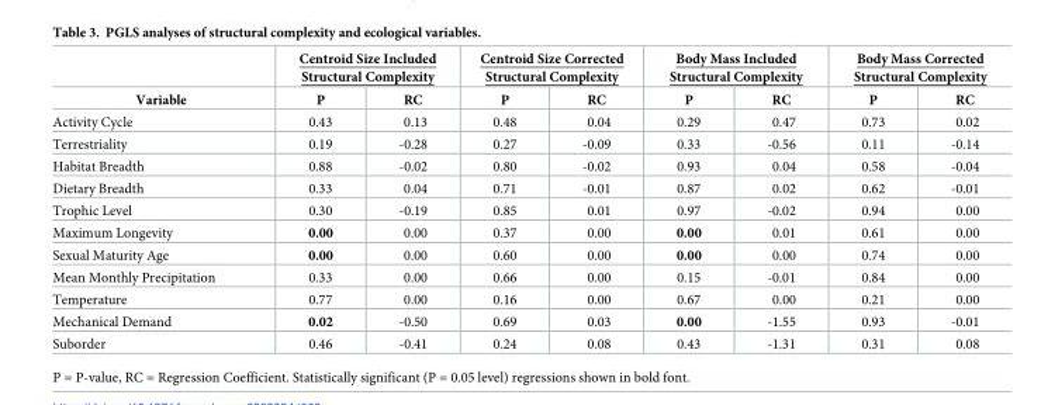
<table><thead><tr><td rowspan="2">Variable</td><td colspan="2">Centroid Size Included Structural Complexity</td><td colspan="2">Centroid Size Corrected Structural Complexity</td><td colspan="2">Body Mass Included Structural Complexity</td><td colspan="2">Body Mass Corrected Structural Complexity</td></tr><tr><td>P</td><td>RC</td><td>P</td><td>RC</td><td>P</td><td>RC</td><td>P</td><td>RC</td></tr></thead><tbody><tr><td>Activity Cycle</td><td>0.43</td><td>0.13</td><td>0.48</td><td>0.04</td><td>0.29</td><td>0.47</td><td>0.73</td><td>0.02</td></tr><tr><td>Terrestriality</td><td>0.19</td><td>-0.28</td><td>0.27</td><td>-0.09</td><td>0.33</td><td>-0.56</td><td>0.11</td><td>-0.14</td></tr><tr><td>Habitat Breadth</td><td>0.88</td><td>-0.02</td><td>0.80</td><td>-0.02</td><td>0.93</td><td>0.04</td><td>0.58</td><td>-0.04</td></tr><tr><td>Dietary Breadth</td><td>0.33</td><td>0.04</td><td>0.71</td><td>-0.01</td><td>0.87</td><td>0.02</td><td>0.62</td><td>-0.01</td></tr><tr><td>Trophic Level</td><td>0.30</td><td>-0.19</td><td>0.85</td><td>0.01</td><td>0.97</td><td>-0.02</td><td>0.94</td><td>0.00</td></tr><tr><td>Maximum Longevity</td><td>0.00</td><td>0.00</td><td>0.37</td><td>0.00</td><td>0.00</td><td>0.01</td><td>0.61</td><td>0.00</td></tr><tr><td>Sexual Maturity Age</td><td>0.00</td><td>0.00</td><td>0.60</td><td>0.00</td><td>0.00</td><td>0.00</td><td>0.74</td><td>0.00</td></tr><tr><td>Mean Monthly Precipitation</td><td>0.33</td><td>0.00</td><td>0.66</td><td>0.00</td><td>0.15</td><td>-0.01</td><td>0.84</td><td>0.00</td></tr><tr><td>Temperature</td><td>0.77</td><td>0.00</td><td>0.16</td><td>0.00</td><td>0.67</td><td>0.00</td><td>0.21</td><td>0.00</td></tr><tr><td>Mechanical Demand</td><td>0.02</td><td>-0.50</td><td>0.69</td><td>0.03</td><td>0.00</td><td>-1.55</td><td>0.93</td><td>-0.01</td></tr><tr><td>Suborder</td><td>0.46</td><td>-0.41</td><td>0.24</td><td>0.08</td><td>0.43</td><td>-1.31</td><td>0.31</td><td>0.08</td></tr></tbody></table>